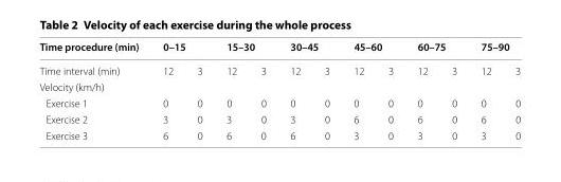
<table><thead><tr><td rowspan="2">Time procedure (min) Time interval (min)</td><td colspan="2">0–15</td><td colspan="2">15–30</td><td colspan="2">30–45</td><td colspan="2">45–60</td><td colspan="2">60–75</td><td colspan="2">75–90</td></tr><tr><td>12</td><td>3</td><td>12</td><td>3</td><td>12</td><td>3</td><td>12</td><td>3</td><td>12</td><td>3</td><td>12</td><td>3</td></tr></thead><tbody><tr><td colspan="13">Velocity (km/h)</td></tr><tr><td>Exercise 1</td><td>0</td><td>0</td><td>0</td><td>0</td><td>0</td><td>0</td><td>0</td><td>0</td><td>0</td><td>0</td><td>0</td><td>0</td></tr><tr><td>Exercise 2</td><td>3</td><td>0</td><td>3</td><td>0</td><td>3</td><td>0</td><td>6</td><td>0</td><td>6</td><td>0</td><td>6</td><td>0</td></tr><tr><td>Exercise 3</td><td>6</td><td>0</td><td>6</td><td>0</td><td>6</td><td>0</td><td>3</td><td>0</td><td>3</td><td>0</td><td>3</td><td>0</td></tr></tbody></table>